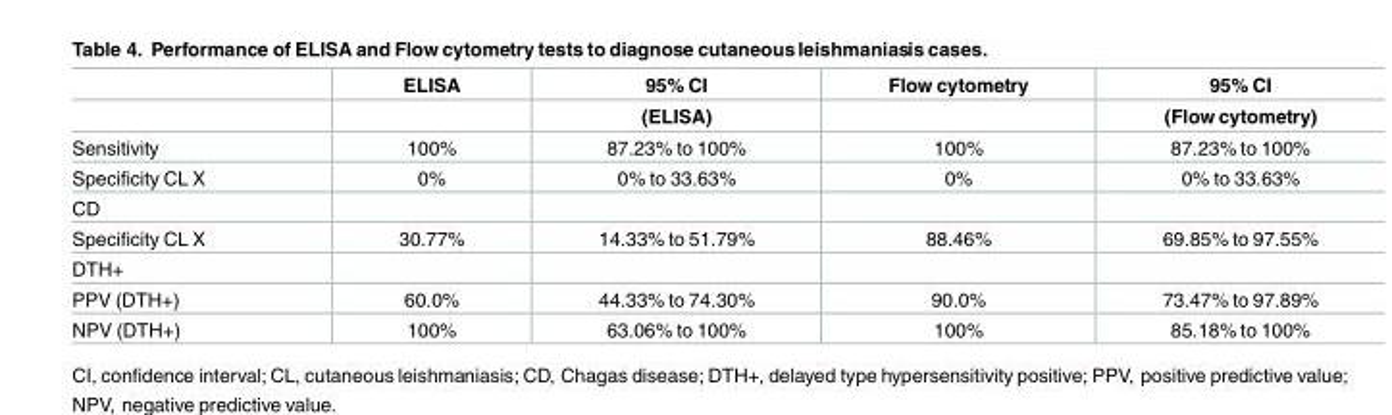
<table><thead><tr><td rowspan="2"></td><td rowspan="2">ELISA</td><td rowspan="2">95% CI (ELISA)</td><td rowspan="2">Flow cytometry</td><td rowspan="2">95% CI (Flow cytometry)</td></tr><tr></tr></thead><tbody><tr><td>Sensitivity</td><td>100%</td><td>87.23% to 100%</td><td>100%</td><td>87.23% to 100%</td></tr><tr><td>Specificity CL X</td><td>0%</td><td>0% to 33.63%</td><td>0%</td><td>0% to 33.63%</td></tr><tr><td colspan="5">CD</td></tr><tr><td>Specificity CL X</td><td>30.77%</td><td>14.33% to 51.79%</td><td>88.46%</td><td>69.85% to 97.55%</td></tr><tr><td colspan="5">DTH+</td></tr><tr><td>PPV (DTH+)</td><td>60.0%</td><td>44.33% to 74.30%</td><td>90.0%</td><td>73.47% to 97.89%</td></tr><tr><td>NPV (DTH+)</td><td>100%</td><td>63.06% to 100%</td><td>100%</td><td>85.18% to 100%</td></tr></tbody></table>